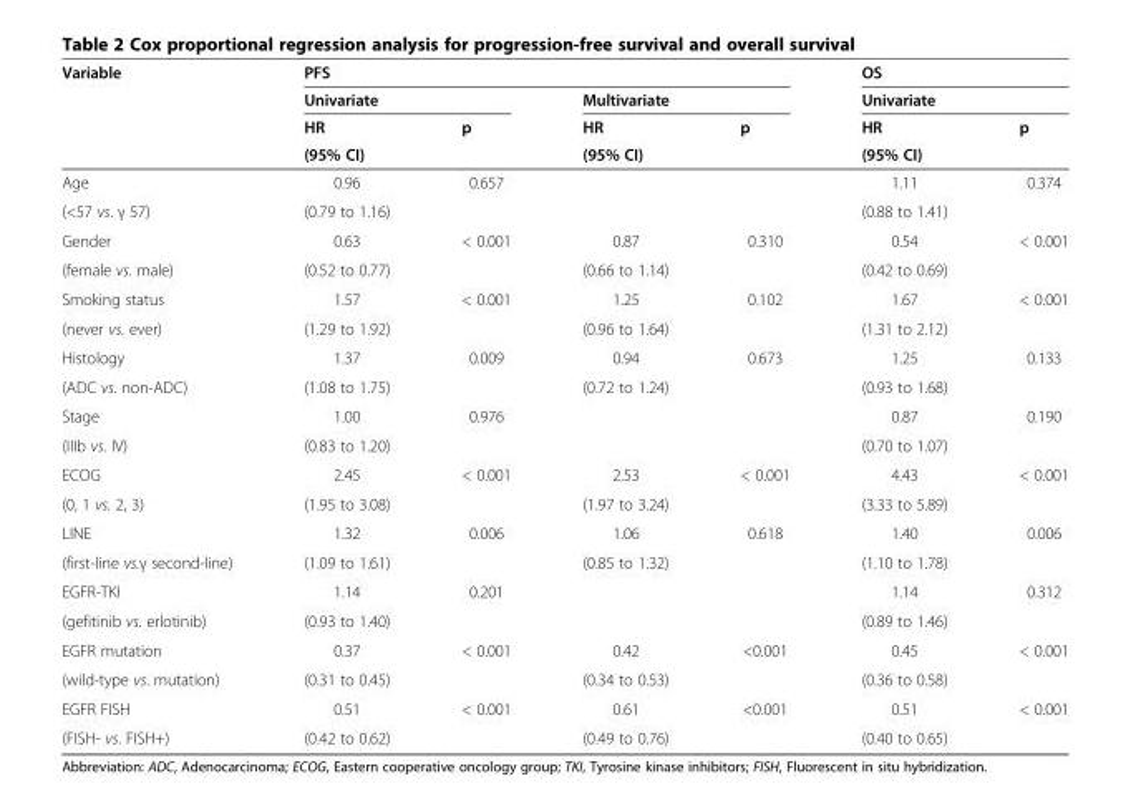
<table><thead><tr><td rowspan="4">Variable</td><td colspan="4">PFS</td><td rowspan="2" colspan="2">OS Univariate</td></tr><tr><td colspan="2">Univariate</td><td colspan="2">Multivariate</td></tr><tr><td rowspan="2">HR (95% CI)</td><td rowspan="2">p</td><td rowspan="2">HR (95% CI)</td><td rowspan="2">p</td><td rowspan="2">HR (95% CI)</td><td rowspan="2">p</td></tr><tr></tr></thead><tbody><tr><td>Age</td><td>0.96</td><td rowspan="2">0.657</td><td rowspan="2"></td><td rowspan="2"></td><td>1.11</td><td rowspan="2">0.374</td></tr><tr><td>(&lt;57 vs. γ 57)</td><td>(0.79 to 1.16)</td><td>(0.88 to 1.41)</td></tr><tr><td>Gender</td><td>0.63</td><td rowspan="2">&lt; 0.001</td><td>0.87</td><td rowspan="2">0.310</td><td>0.54</td><td rowspan="2">&lt; 0.001</td></tr><tr><td>(female vs. male)</td><td>(0.52 to 0.77)</td><td>(0.66 to 1.14)</td><td>(0.42 to 0.69)</td></tr><tr><td>Smoking status</td><td>1.57</td><td rowspan="2">&lt; 0.001</td><td>1.25</td><td rowspan="2">0.102</td><td>1.67</td><td rowspan="2">&lt; 0.001</td></tr><tr><td>(never vs. ever)</td><td>(1.29 to 1.92)</td><td>(0.96 to 1.64)</td><td>(1.31 to 2.12)</td></tr><tr><td>Histology</td><td>1.37</td><td rowspan="2">0.009</td><td>0.94</td><td rowspan="2">0.673</td><td>1.25</td><td rowspan="2">0.133</td></tr><tr><td>(ADC vs. non-ADC)</td><td>(1.08 to 1.75)</td><td>(0.72 to 1.24)</td><td>(0.93 to 1.68)</td></tr><tr><td>Stage</td><td>1.00</td><td rowspan="2">0.976</td><td rowspan="2"></td><td rowspan="2"></td><td>0.87</td><td rowspan="2">0.190</td></tr><tr><td>(IIIb vs. IV)</td><td>(0.83 to 1.20)</td><td>(0.70 to 1.07)</td></tr><tr><td>ECOG</td><td>2.45</td><td rowspan="2">&lt; 0.001</td><td>2.53</td><td rowspan="2">&lt; 0.001</td><td>4.43</td><td rowspan="2">&lt; 0.001</td></tr><tr><td>(0, 1 vs. 2, 3)</td><td>(1.95 to 3.08)</td><td>(1.97 to 3.24)</td><td>(3.33 to 5.89)</td></tr><tr><td>LINE</td><td>1.32</td><td rowspan="2">0.006</td><td>1.06</td><td rowspan="2">0.618</td><td>1.40</td><td rowspan="2">0.006</td></tr><tr><td>(first-line vs.γ second-line)</td><td>(1.09 to 1.61)</td><td>(0.85 to 1.32)</td><td>(1.10 to 1.78)</td></tr><tr><td>EGFR-TKI</td><td>1.14</td><td rowspan="2">0.201</td><td rowspan="2"></td><td rowspan="2"></td><td>1.14</td><td rowspan="2">0.312</td></tr><tr><td>(gefitinib vs. erlotinib)</td><td>(0.93 to 1.40)</td><td>(0.89 to 1.46)</td></tr><tr><td>EGFR mutation</td><td>0.37</td><td rowspan="2">&lt; 0.001</td><td>0.42</td><td rowspan="2">&lt;0.001</td><td>0.45</td><td rowspan="2">&lt; 0.001</td></tr><tr><td>(wild-type vs. mutation)</td><td>(0.31 to 0.45)</td><td>(0.34 to 0.53)</td><td>(0.36 to 0.58)</td></tr><tr><td>EGFR FISH</td><td>0.51</td><td rowspan="2">&lt; 0.001</td><td>0.61</td><td rowspan="2">&lt;0.001</td><td>0.51</td><td rowspan="2">&lt; 0.001</td></tr><tr><td>(FISH- vs. FISH+)</td><td>(0.42 to 0.62)</td><td>(0.49 to 0.76)</td><td>(0.40 to 0.65)</td></tr></tbody></table>